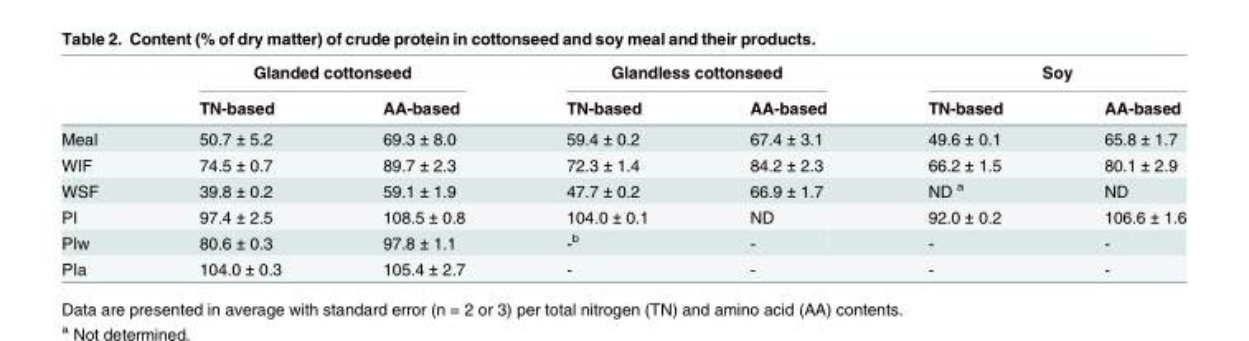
<table><thead><tr><td rowspan="2"></td><td colspan="2">Glanded cottonseed</td><td colspan="2">Glandless cottonseed</td><td colspan="2">Soy</td></tr><tr><td>TN-based</td><td>AA-based</td><td>TN-based</td><td>AA-based</td><td>TN-based</td><td>AA-based</td></tr></thead><tbody><tr><td>Meal</td><td>50.7 ± 5.2</td><td>69.3 ± 8.0</td><td>59.4 ± 0.2</td><td>67.4 ± 3.1</td><td>49.6 ± 0.1</td><td>65.8 ± 1.7</td></tr><tr><td>WIF</td><td>74.5 ± 0.7</td><td>89.7 ± 2.3</td><td>72.3 ± 1.4</td><td>84.2 ± 2.3</td><td>66.2 ± 1.5</td><td>80.1 ± 2.9</td></tr><tr><td>WSF</td><td>39.8 ± 0.2</td><td>59.1 ± 1.9</td><td>47.7 ± 0.2</td><td>66.9 ± 1.7</td><td>ND <sup>a</sup></td><td>ND</td></tr><tr><td>PI</td><td>97.4 ± 2.5</td><td>108.5 ± 0.8</td><td>104.0 ± 0.1</td><td>ND</td><td>92.0 ± 0.2</td><td>106.6 ± 1.6</td></tr><tr><td>PIw</td><td>80.6 ± 0.3</td><td>97.8 ± 1.1</td><td>-<sup>b</sup></td><td>-</td><td>-</td><td>-</td></tr><tr><td>PIa</td><td>104.0 ± 0.3</td><td>105.4 ± 2.7</td><td>-</td><td>-</td><td>-</td><td>-</td></tr></tbody></table>